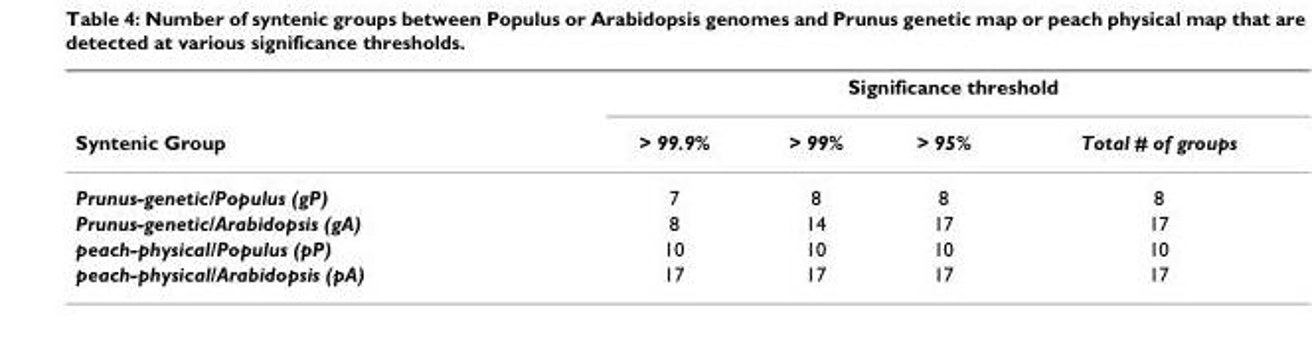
<table><thead><tr><td rowspan="2">Syntenic Group</td><td colspan="4">Significance threshold</td></tr><tr><td>&gt; 99.9%</td><td>&gt; 99%</td><td>&gt; 95%</td><td>Total # of groups</td></tr></thead><tbody><tr><td>Prunus-genetic/Populus (gP)</td><td>7</td><td>8</td><td>8</td><td>8</td></tr><tr><td>Prunus-genetic/Arabidopsis (gA)</td><td>8</td><td>14</td><td>17</td><td>17</td></tr><tr><td>peach-physical/Populus (pP)</td><td>10</td><td>10</td><td>10</td><td>10</td></tr><tr><td>peach-physical/Arabidopsis (pA)</td><td>17</td><td>17</td><td>17</td><td>17</td></tr></tbody></table>